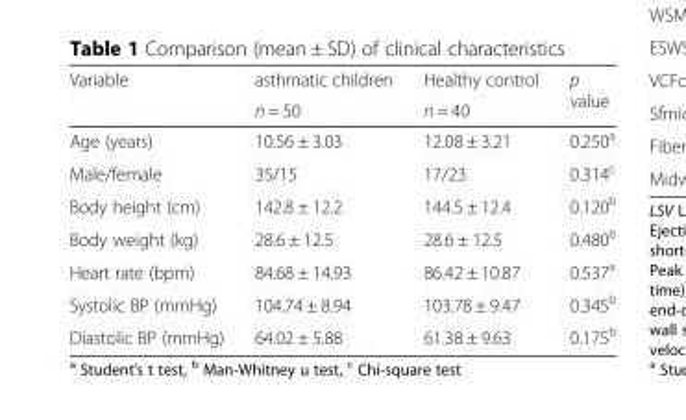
<table><thead><tr><td rowspan="2">Variable</td><td rowspan="2">asthmatic children n = 50</td><td rowspan="2">Healthy control n = 40</td><td rowspan="2">p value</td></tr><tr></tr></thead><tbody><tr><td>Age (years)</td><td>10.56 ± 3.03</td><td>12.08 ± 3.21</td><td>0.250<sup>a</sup></td></tr><tr><td>Male/female</td><td>35/15</td><td>17/23</td><td>0.314<sup>c</sup></td></tr><tr><td>Body height (cm)</td><td>142.8 ± 12.2</td><td>144.5 ± 12.4</td><td>0.120<sup>b</sup></td></tr><tr><td>Body weight (kg)</td><td>28.6 ± 12.5</td><td>28.6 ± 12.5</td><td>0.480<sup>b</sup></td></tr><tr><td>Heart rate (bpm)</td><td>84.68 ± 14.93</td><td>86.42 ± 10.87</td><td>0.537<sup>a</sup></td></tr><tr><td>Systolic BP (mmHg)</td><td>104.74 ± 8.94</td><td>103.78 ± 9.47</td><td>0.345<sup>b</sup></td></tr><tr><td>Diastolic BP (mmHg)</td><td>64.02 ± 5.88</td><td>61.38 ± 9.63</td><td>0.175<sup>b</sup></td></tr></tbody></table>